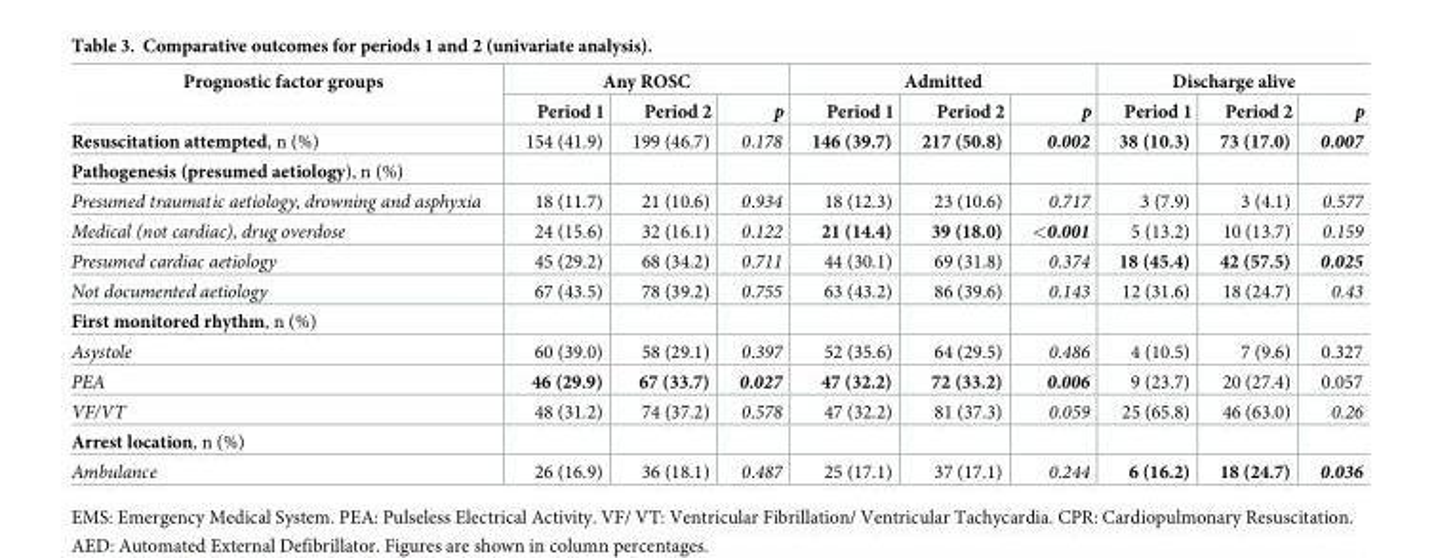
<table><thead><tr><td rowspan="2">Prognostic factor groups</td><td colspan="3">Any ROSC</td><td colspan="3">Admitted</td><td colspan="3">Discharge alive</td></tr><tr><td>Period 1</td><td>Period 2</td><td>p</td><td>Period 1</td><td>Period 2</td><td>p</td><td>Period 1</td><td>Period 2</td><td>p</td></tr></thead><tbody><tr><td>Resuscitation attempted, n (%)</td><td>154 (41.9)</td><td>199 (46.7)</td><td>0.178</td><td>146 (39.7)</td><td>217 (50.8)</td><td>0.002</td><td>38 (10.3)</td><td>73 (17.0)</td><td>0.007</td></tr><tr><td colspan="10">Pathogenesis (presumed aetiology), n (%)</td></tr><tr><td>Presumed traumatic aetiology, drowning and asphyxia</td><td>18 (11.7)</td><td>21 (10.6)</td><td>0.934</td><td>18 (12.3)</td><td>23 (10.6)</td><td>0.717</td><td>3 (7.9)</td><td>3 (4.1)</td><td>0.577</td></tr><tr><td>Medical (not cardiac), drug overdose</td><td>24 (15.6)</td><td>32 (16.1)</td><td>0.122</td><td>21 (14.4)</td><td>39 (18.0)</td><td>&lt;0.001</td><td>5 (13.2)</td><td>10 (13.7)</td><td>0.159</td></tr><tr><td>Presumed cardiac aetiology</td><td>45 (29.2)</td><td>68 (34.2)</td><td>0.711</td><td>44 (30.1)</td><td>69 (31.8)</td><td>0.374</td><td>18 (45.4)</td><td>42 (57.5)</td><td>0.025</td></tr><tr><td>Not documented aetiology</td><td>67 (43.5)</td><td>78 (39.2)</td><td>0.755</td><td>63 (43.2)</td><td>86 (39.6)</td><td>0.143</td><td>12 (31.6)</td><td>18 (24.7)</td><td>0.43</td></tr><tr><td colspan="10">First monitored rhythm, n (%)</td></tr><tr><td>Asystole</td><td>60 (39.0)</td><td>58 (29.1)</td><td>0.397</td><td>52 (35.6)</td><td>64 (29.5)</td><td>0.486</td><td>4 (10.5)</td><td>7 (9.6)</td><td>0.327</td></tr><tr><td>PEA</td><td>46 (29.9)</td><td>67 (33.7)</td><td>0.027</td><td>47 (32.2)</td><td>72 (33.2)</td><td>0.006</td><td>9 (23.7)</td><td>20 (27.4)</td><td>0.057</td></tr><tr><td>VF/VT</td><td>48 (31.2)</td><td>74 (37.2)</td><td>0.578</td><td>47 (32.2)</td><td>81 (37.3)</td><td>0.059</td><td>25 (65.8)</td><td>46 (63.0)</td><td>0.26</td></tr><tr><td colspan="10">Arrest location, n (%)</td></tr><tr><td>Ambulance</td><td>26 (16.9)</td><td>36 (18.1)</td><td>0.487</td><td>25 (17.1)</td><td>37 (17.1)</td><td>0.244</td><td>6 (16.2)</td><td>18 (24.7)</td><td>0.036</td></tr></tbody></table>